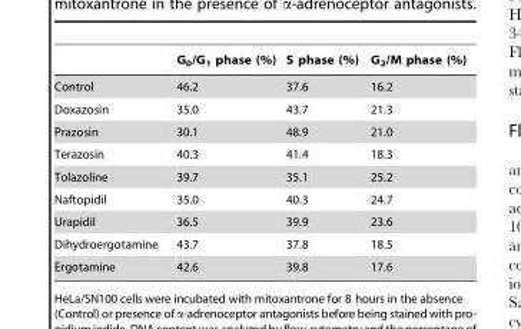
<table><thead><tr><td></td><td>G<sub>0</sub>/G<sub>1</sub> phase (%)</td><td>S phase (%)</td><td>G<sub>2</sub>/M phase (%)</td></tr></thead><tbody><tr><td>Control</td><td>46.2</td><td>37.6</td><td>16.2</td></tr><tr><td>Doxazosin</td><td>35.0</td><td>43.7</td><td>21.3</td></tr><tr><td>Prazosin</td><td>30.1</td><td>48.9</td><td>21.0</td></tr><tr><td>Terazosin</td><td>40.3</td><td>41.4</td><td>18.3</td></tr><tr><td>Tolazoline</td><td>39.7</td><td>35.1</td><td>25.2</td></tr><tr><td>Naftopidil</td><td>35.0</td><td>40.3</td><td>24.7</td></tr><tr><td>Urapidil</td><td>36.5</td><td>39.9</td><td>23.6</td></tr><tr><td>Dihydroergotamine</td><td>43.7</td><td>37.8</td><td>18.5</td></tr><tr><td>Ergotamine</td><td>42.6</td><td>39.8</td><td>17.6</td></tr></tbody></table>